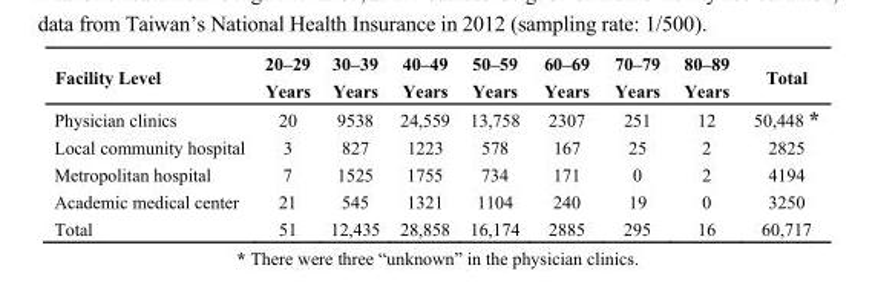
<table><thead><tr><td>Facility Level</td><td>20–29 Years</td><td>30–39 Years</td><td>40–49 Years</td><td>50–59 Years</td><td>60–69 Years</td><td>70–79 Years</td><td>80–89 Years</td><td>Total</td></tr></thead><tbody><tr><td>Physician clinics</td><td>20</td><td>9538</td><td>24,559</td><td>13,758</td><td>2307</td><td>251</td><td>12</td><td>50,448 *</td></tr><tr><td>Local community hospital</td><td>3</td><td>827</td><td>1223</td><td>578</td><td>167</td><td>25</td><td>2</td><td>2825</td></tr><tr><td>Metropolitan hospital</td><td>7</td><td>1525</td><td>1755</td><td>734</td><td>171</td><td>0</td><td>2</td><td>4194</td></tr><tr><td>Academic medical center</td><td>21</td><td>545</td><td>1321</td><td>1104</td><td>240</td><td>19</td><td>0</td><td>3250</td></tr><tr><td>Total</td><td>51</td><td>12,435</td><td>28,858</td><td>16,174</td><td>2885</td><td>295</td><td>16</td><td>60,717</td></tr></tbody></table>